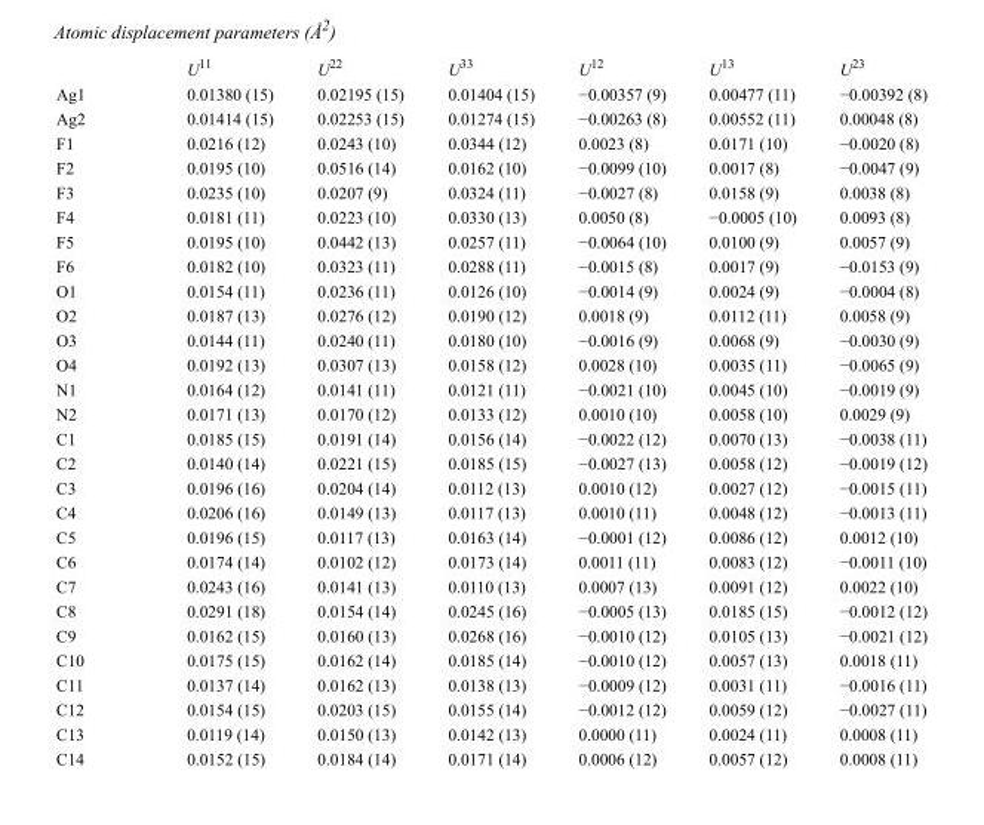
<table><thead><tr><td></td><td>U<sup>11</sup></td><td>U<sup>22</sup></td><td>U<sup>33</sup></td><td>U<sup>12</sup></td><td>U<sup>13</sup></td><td>U<sup>23</sup></td></tr></thead><tbody><tr><td>Ag1</td><td>0.01380 (15)</td><td>0.02195 (15)</td><td>0.01404 (15)</td><td>−0.00357 (9)</td><td>0.00477 (11)</td><td>−0.00392 (8)</td></tr><tr><td>Ag2</td><td>0.01414 (15)</td><td>0.02253 (15)</td><td>0.01274 (15)</td><td>−0.00263 (8)</td><td>0.00552 (11)</td><td>0.00048 (8)</td></tr><tr><td>F1</td><td>0.0216 (12)</td><td>0.0243 (10)</td><td>0.0344 (12)</td><td>0.0023 (8)</td><td>0.0171 (10)</td><td>−0.0020 (8)</td></tr><tr><td>F2</td><td>0.0195 (10)</td><td>0.0516 (14)</td><td>0.0162 (10)</td><td>−0.0099 (10)</td><td>0.0017 (8)</td><td>−0.0047 (9)</td></tr><tr><td>F3</td><td>0.0235 (10)</td><td>0.0207 (9)</td><td>0.0324 (11)</td><td>−0.0027 (8)</td><td>0.0158 (9)</td><td>0.0038 (8)</td></tr><tr><td>F4</td><td>0.0181 (11)</td><td>0.0223 (10)</td><td>0.0330 (13)</td><td>0.0050 (8)</td><td>−0.0005 (10)</td><td>0.0093 (8)</td></tr><tr><td>F5</td><td>0.0195 (10)</td><td>0.0442 (13)</td><td>0.0257 (11)</td><td>−0.0064 (10)</td><td>0.0100 (9)</td><td>0.0057 (9)</td></tr><tr><td>F6</td><td>0.0182 (10)</td><td>0.0323 (11)</td><td>0.0288 (11)</td><td>−0.0015 (8)</td><td>0.0017 (9)</td><td>−0.0153 (9)</td></tr><tr><td>O1</td><td>0.0154 (11)</td><td>0.0236 (11)</td><td>0.0126 (10)</td><td>−0.0014 (9)</td><td>0.0024 (9)</td><td>−0.0004 (8)</td></tr><tr><td>O2</td><td>0.0187 (13)</td><td>0.0276 (12)</td><td>0.0190 (12)</td><td>0.0018 (9)</td><td>0.0112 (11)</td><td>0.0058 (9)</td></tr><tr><td>O3</td><td>0.0144 (11)</td><td>0.0240 (11)</td><td>0.0180 (10)</td><td>−0.0016 (9)</td><td>0.0068 (9)</td><td>−0.0030 (9)</td></tr><tr><td>O4</td><td>0.0192 (13)</td><td>0.0307 (13)</td><td>0.0158 (12)</td><td>0.0028 (10)</td><td>0.0035 (11)</td><td>−0.0065 (9)</td></tr><tr><td>N1</td><td>0.0164 (12)</td><td>0.0141 (11)</td><td>0.0121 (11)</td><td>−0.0021 (10)</td><td>0.0045 (10)</td><td>−0.0019 (9)</td></tr><tr><td>N2</td><td>0.0171 (13)</td><td>0.0170 (12)</td><td>0.0133 (12)</td><td>0.0010 (10)</td><td>0.0058 (10)</td><td>0.0029 (9)</td></tr><tr><td>C1</td><td>0.0185 (15)</td><td>0.0191 (14)</td><td>0.0156 (14)</td><td>−0.0022 (12)</td><td>0.0070 (13)</td><td>−0.0038 (11)</td></tr><tr><td>C2</td><td>0.0140 (14)</td><td>0.0221 (15)</td><td>0.0185 (15)</td><td>−0.0027 (13)</td><td>0.0058 (12)</td><td>−0.0019 (12)</td></tr><tr><td>C3</td><td>0.0196 (16)</td><td>0.0204 (14)</td><td>0.0112 (13)</td><td>0.0010 (12)</td><td>0.0027 (12)</td><td>−0.0015 (11)</td></tr><tr><td>C4</td><td>0.0206 (16)</td><td>0.0149 (13)</td><td>0.0117 (13)</td><td>0.0010 (11)</td><td>0.0048 (12)</td><td>−0.0013 (11)</td></tr><tr><td>C5</td><td>0.0196 (15)</td><td>0.0117 (13)</td><td>0.0163 (14)</td><td>−0.0001 (12)</td><td>0.0086 (12)</td><td>0.0012 (10)</td></tr><tr><td>C6</td><td>0.0174 (14)</td><td>0.0102 (12)</td><td>0.0173 (14)</td><td>0.0011 (11)</td><td>0.0083 (12)</td><td>−0.0011 (10)</td></tr><tr><td>C7</td><td>0.0243 (16)</td><td>0.0141 (13)</td><td>0.0110 (13)</td><td>0.0007 (13)</td><td>0.0091 (12)</td><td>0.0022 (10)</td></tr><tr><td>C8</td><td>0.0291 (18)</td><td>0.0154 (14)</td><td>0.0245 (16)</td><td>−0.0005 (13)</td><td>0.0185 (15)</td><td>−0.0012 (12)</td></tr><tr><td>C9</td><td>0.0162 (15)</td><td>0.0160 (13)</td><td>0.0268 (16)</td><td>−0.0010 (12)</td><td>0.0105 (13)</td><td>−0.0021 (12)</td></tr><tr><td>C10</td><td>0.0175 (15)</td><td>0.0162 (14)</td><td>0.0185 (14)</td><td>−0.0010 (12)</td><td>0.0057 (13)</td><td>0.0018 (11)</td></tr><tr><td>C11</td><td>0.0137 (14)</td><td>0.0162 (13)</td><td>0.0138 (13)</td><td>−0.0009 (12)</td><td>0.0031 (11)</td><td>−0.0016 (11)</td></tr><tr><td>C12</td><td>0.0154 (15)</td><td>0.0203 (15)</td><td>0.0155 (14)</td><td>−0.0012 (12)</td><td>0.0059 (12)</td><td>−0.0027 (11)</td></tr><tr><td>C13</td><td>0.0119 (14)</td><td>0.0150 (13)</td><td>0.0142 (13)</td><td>0.0000 (11)</td><td>0.0024 (11)</td><td>0.0008 (11)</td></tr><tr><td>C14</td><td>0.0152 (15)</td><td>0.0184 (14)</td><td>0.0171 (14)</td><td>0.0006 (12)</td><td>0.0057 (12)</td><td>0.0008 (11)</td></tr></tbody></table>